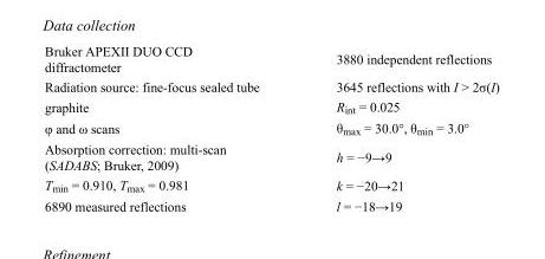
<table><tbody><tr><td>Bruker APEXII DUO CCD diffractometer</td><td>3880 independent reflections</td></tr><tr><td>Radiation source: fine-focus sealed tube</td><td>3645 reflections with I &gt; 2σ(I)</td></tr><tr><td>graphite</td><td>R<sub>int</sub> = 0.025</td></tr><tr><td>φ and ω scans</td><td>θ<sub>max</sub> = 30.0°, θ<sub>min</sub> = 3.0°</td></tr><tr><td>Absorption correction: multi-scan (SADABS; Bruker, 2009)</td><td>h = −9→9</td></tr><tr><td>T<sub>min</sub> = 0.910, T<sub>max</sub> = 0.981</td><td>k = −20→21</td></tr><tr><td>6890 measured reflections</td><td>l = −18→19</td></tr></tbody></table>